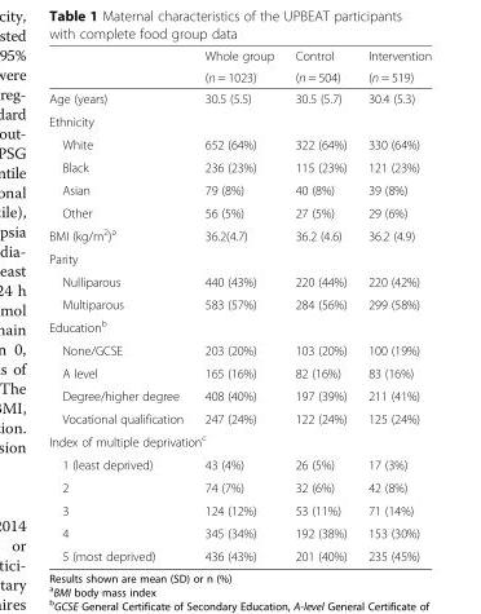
<table><thead><tr><td rowspan="2"></td><td rowspan="2">Whole group (n = 1023)</td><td rowspan="2">Control (n = 504)</td><td rowspan="2">Intervention (n = 519)</td></tr><tr></tr></thead><tbody><tr><td>Age (years)</td><td>30.5 (5.5)</td><td>30.5 (5.7)</td><td>30.4 (5.3)</td></tr><tr><td colspan="4">Ethnicity</td></tr><tr><td>White</td><td>652 (64%)</td><td>322 (64%)</td><td>330 (64%)</td></tr><tr><td>Black</td><td>236 (23%)</td><td>115 (23%)</td><td>121 (23%)</td></tr><tr><td>Asian</td><td>79 (8%)</td><td>40 (8%)</td><td>39 (8%)</td></tr><tr><td>Other</td><td>56 (5%)</td><td>27 (5%)</td><td>29 (6%)</td></tr><tr><td>BMI (kg/m<sup>2</sup>)<sup>a</sup></td><td>36.2(4.7)</td><td>36.2 (4.6)</td><td>36.2 (4.9)</td></tr><tr><td colspan="4">Parity</td></tr><tr><td>Nulliparous</td><td>440 (43%)</td><td>220 (44%)</td><td>220 (42%)</td></tr><tr><td>Multiparous</td><td>583 (57%)</td><td>284 (56%)</td><td>299 (58%)</td></tr><tr><td colspan="4">Education<sup>b</sup></td></tr><tr><td>None/GCSE</td><td>203 (20%)</td><td>103 (20%)</td><td>100 (19%)</td></tr><tr><td>A level</td><td>165 (16%)</td><td>82 (16%)</td><td>83 (16%)</td></tr><tr><td>Degree/higher degree</td><td>408 (40%)</td><td>197 (39%)</td><td>211 (41%)</td></tr><tr><td>Vocational qualification</td><td>247 (24%)</td><td>122 (24%)</td><td>125 (24%)</td></tr><tr><td colspan="4">Index of multiple deprivation<sup>c</sup></td></tr><tr><td>1 (least deprived)</td><td>43 (4%)</td><td>26 (5%)</td><td>17 (3%)</td></tr><tr><td>2</td><td>74 (7%)</td><td>32 (6%)</td><td>42 (8%)</td></tr><tr><td>3</td><td>124 (12%)</td><td>53 (11%)</td><td>71 (14%)</td></tr><tr><td>4</td><td>345 (34%)</td><td>192 (38%)</td><td>153 (30%)</td></tr><tr><td>5 (most deprived)</td><td>436 (43%)</td><td>201 (40%)</td><td>235 (45%)</td></tr></tbody></table>